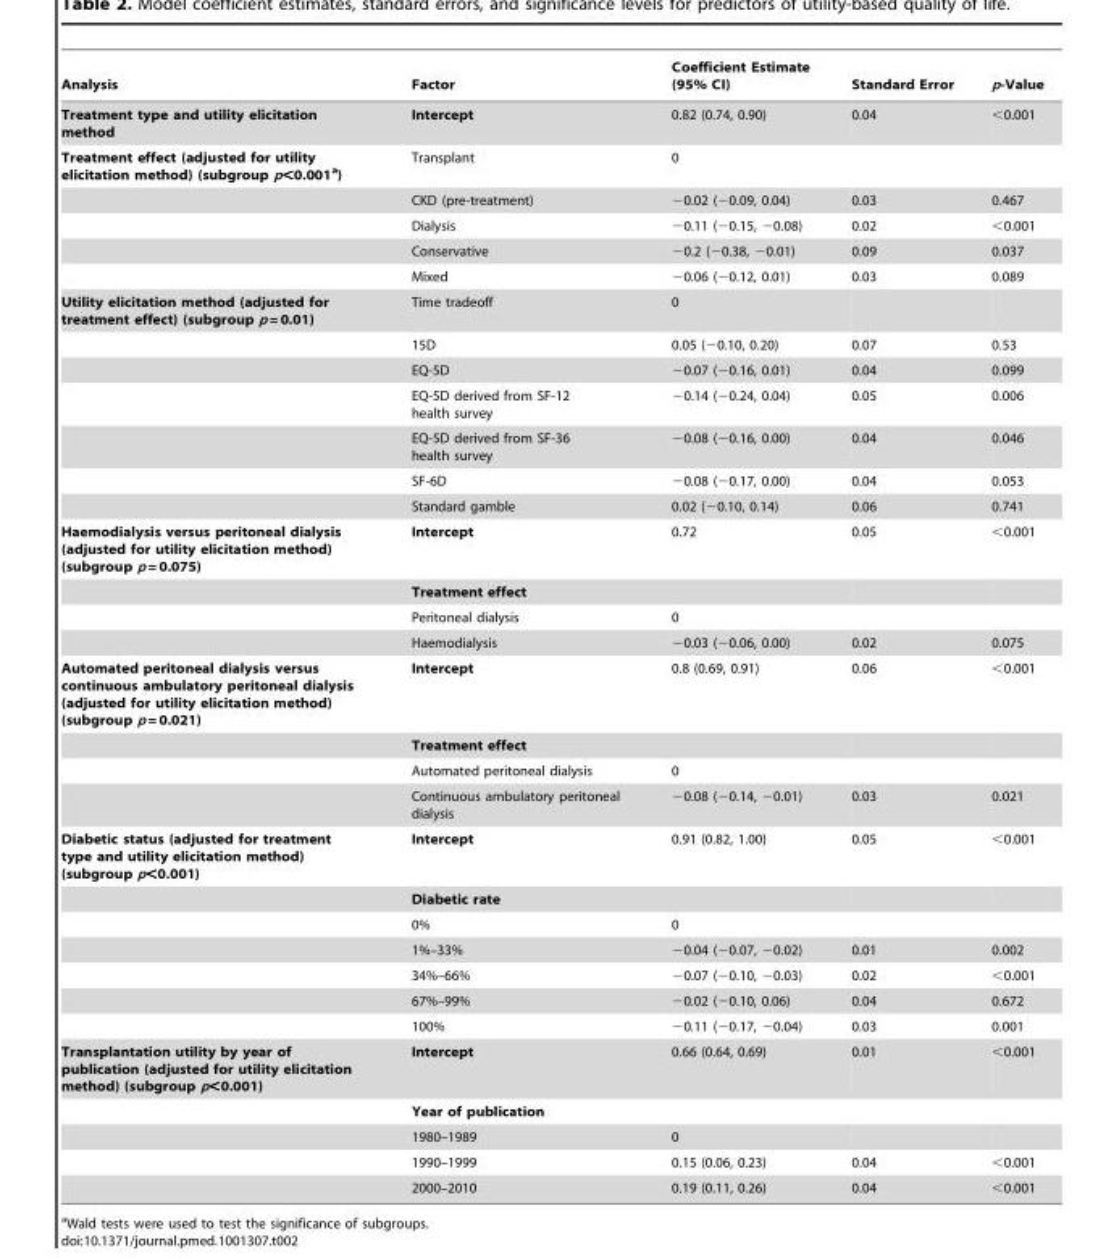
<table><thead><tr><td>Analysis</td><td>Factor</td><td>Coefficient Estimate (95% CI)</td><td>Standard Error</td><td>p-Value</td></tr></thead><tbody><tr><td>Treatment type and utility elicitation method</td><td>Intercept</td><td>0.82 (0.74, 0.90)</td><td>0.04</td><td>&lt;0.001</td></tr><tr><td rowspan="5">Treatment effect (adjusted for utility elicitation method) (subgroup p&lt;0.001a)</td><td>Transplant</td><td>0</td><td></td><td></td></tr><tr><td>CKD (pre-treatment)</td><td>−0.02 (−0.09, 0.04)</td><td>0.03</td><td>0.467</td></tr><tr><td>Dialysis</td><td>−0.11 (−0.15, −0.08)</td><td>0.02</td><td>&lt;0.001</td></tr><tr><td>Conservative</td><td>−0.2 (−0.38, −0.01)</td><td>0.09</td><td>0.037</td></tr><tr><td>Mixed</td><td>−0.06 (−0.12, 0.01)</td><td>0.03</td><td>0.089</td></tr><tr><td rowspan="7">Utility elicitation method (adjusted for treatment effect) (subgroup p = 0.01)</td><td>Time tradeoff</td><td>0</td><td></td><td></td></tr><tr><td>15D</td><td>0.05 (−0.10, 0.20)</td><td>0.07</td><td>0.53</td></tr><tr><td>EQ-5D</td><td>−0.07 (−0.16, 0.01)</td><td>0.04</td><td>0.099</td></tr><tr><td>EQ-5D derived from SF-12 health survey</td><td>−0.14 (−0.24, 0.04)</td><td>0.05</td><td>0.006</td></tr><tr><td>EQ-5D derived from SF-36 health survey</td><td>−0.08 (−0.16, 0.00)</td><td>0.04</td><td>0.046</td></tr><tr><td>SF-6D</td><td>−0.08 (−0.17, 0.00)</td><td>0.04</td><td>0.053</td></tr><tr><td>Standard gamble</td><td>0.02 (−0.10, 0.14)</td><td>0.06</td><td>0.741</td></tr><tr><td rowspan="4">Haemodialysis versus peritoneal dialysis (adjusted for utility elicitation method) (subgroup p = 0.075)</td><td>Intercept</td><td>0.72</td><td>0.05</td><td>&lt;0.001</td></tr><tr><td>Treatment effect</td><td></td><td></td><td></td></tr><tr><td>Peritoneal dialysis</td><td>0</td><td></td><td></td></tr><tr><td>Haemodialysis</td><td>−0.03 (−0.06, 0.00)</td><td>0.02</td><td>0.075</td></tr><tr><td rowspan="4">Automated peritoneal dialysis versus continuous ambulatory peritoneal dialysis (adjusted for utility elicitation method) (subgroup p = 0.021)</td><td>Intercept</td><td>0.8 (0.69, 0.91)</td><td>0.06</td><td>&lt;0.001</td></tr><tr><td>Treatment effect</td><td></td><td></td><td></td></tr><tr><td>Automated peritoneal dialysis</td><td>0</td><td></td><td></td></tr><tr><td>Continuous ambulatory peritoneal dialysis</td><td>−0.08 (−0.14, −0.01)</td><td>0.03</td><td>0.021</td></tr><tr><td rowspan="7">Diabetic status (adjusted for treatment type and utility elicitation method) (subgroup p&lt;0.001)</td><td>Intercept</td><td>0.91 (0.82, 1.00)</td><td>0.05</td><td>&lt;0.001</td></tr><tr><td>Diabetic rate</td><td></td><td></td><td></td></tr><tr><td>0%</td><td>0</td><td></td><td></td></tr><tr><td>1%–33%</td><td>−0.04 (−0.07, −0.02)</td><td>0.01</td><td>0.002</td></tr><tr><td>34%–66%</td><td>−0.07 (−0.10, −0.03)</td><td>0.02</td><td>&lt;0.001</td></tr><tr><td>67%–99%</td><td>−0.02 (−0.10, 0.06)</td><td>0.04</td><td>0.672</td></tr><tr><td>100%</td><td>−0.11 (−0.17, −0.04)</td><td>0.03</td><td>0.001</td></tr><tr><td rowspan="5">Transplantation utility by year of publication (adjusted for utility elicitation method) (subgroup p&lt;0.001)</td><td>Intercept</td><td>0.66 (0.64, 0.69)</td><td>0.01</td><td>&lt;0.001</td></tr><tr><td>Year of publication</td><td></td><td></td><td></td></tr><tr><td>1980–1989</td><td>0</td><td></td><td></td></tr><tr><td>1990–1999</td><td>0.15 (0.06, 0.23)</td><td>0.04</td><td>&lt;0.001</td></tr><tr><td>2000–2010</td><td>0.19 (0.11, 0.26)</td><td>0.04</td><td>&lt;0.001</td></tr></tbody></table>